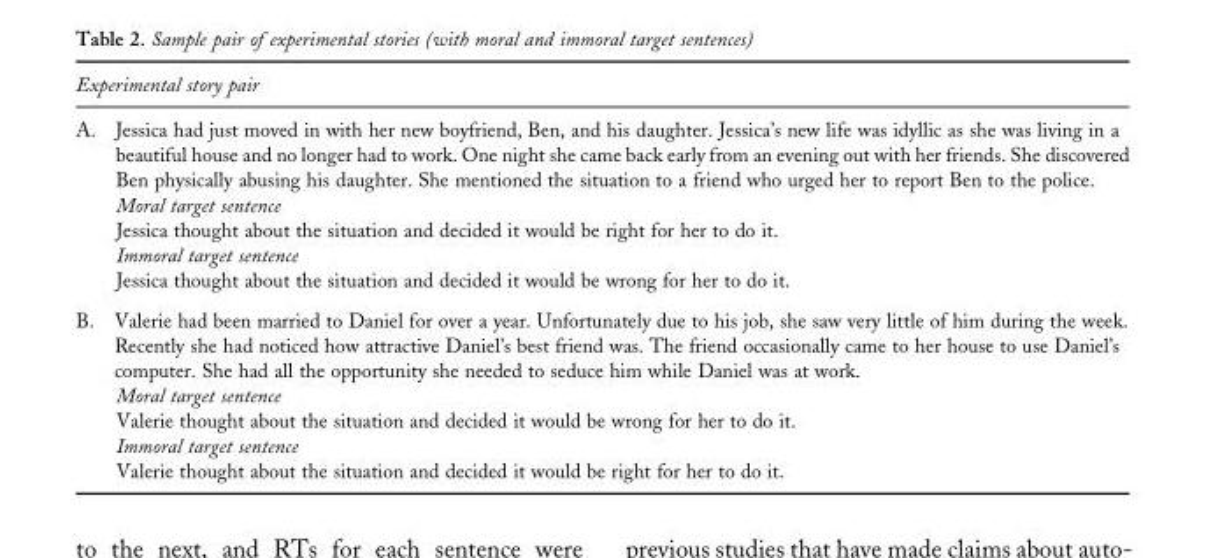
<table><thead><tr><td colspan="2">Experimental story pair</td></tr><tr><td>A.</td><td>Jessica had just moved in with her new boyfriend, Ben, and his daughter. Jessica’s new life was idyllic as she was living in a beautiful house and no longer had to work. One night she came back early from an evening out with her friends. She discovered Ben physically abusing his daughter. She mentioned the situation to a friend who urged her to report Ben to the police.</td></tr></thead><tbody><tr><td></td><td>Moral target sentence</td></tr><tr><td></td><td>Jessica thought about the situation and decided it would be right for her to do it.</td></tr><tr><td></td><td>Immoral target sentence</td></tr><tr><td></td><td>Jessica thought about the situation and decided it would be wrong for her to do it.</td></tr><tr><td rowspan="5">B.</td><td>Valerie had been married to Daniel for over a year. Unfortunately due to his job, she saw very little of him during the week. Recently she had noticed how attractive Daniel’s best friend was. The friend occasionally came to her house to use Daniel’s computer. She had all the opportunity she needed to seduce him while Daniel was at work.</td></tr><tr><td>Moral target sentence</td></tr><tr><td>Valerie thought about the situation and decided it would be wrong for her to do it.</td></tr><tr><td>Immoral target sentence</td></tr><tr><td>Valerie thought about the situation and decided it would be right for her to do it.</td></tr></tbody></table>